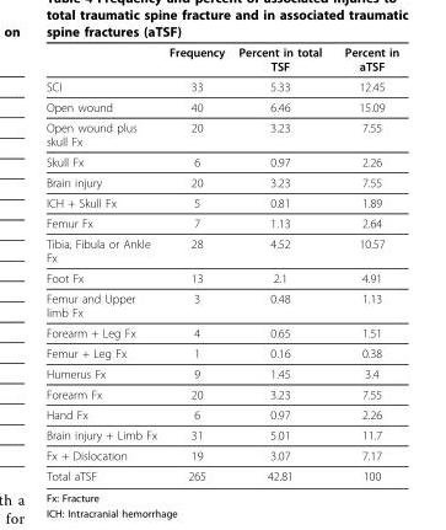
<table><thead><tr><td></td><td>Frequency</td><td>Percent in total TSF</td><td>Percent in aTSF</td></tr></thead><tbody><tr><td>SCI</td><td>33</td><td>5.33</td><td>12.45</td></tr><tr><td>Open wound</td><td>40</td><td>6.46</td><td>15.09</td></tr><tr><td>Open wound plus skull Fx</td><td>20</td><td>3.23</td><td>7.55</td></tr><tr><td>Skull Fx</td><td>6</td><td>0.97</td><td>2.26</td></tr><tr><td>Brain injury</td><td>20</td><td>3.23</td><td>7.55</td></tr><tr><td>ICH + Skull Fx</td><td>5</td><td>0.81</td><td>1.89</td></tr><tr><td>Femur Fx</td><td>7</td><td>1.13</td><td>2.64</td></tr><tr><td>Tibia, Fibula or Ankle Fx</td><td>28</td><td>4.52</td><td>10.57</td></tr><tr><td>Foot Fx</td><td>13</td><td>2.1</td><td>4.91</td></tr><tr><td>Femur and Upper limb Fx</td><td>3</td><td>0.48</td><td>1.13</td></tr><tr><td>Forearm + Leg Fx</td><td>4</td><td>0.65</td><td>1.51</td></tr><tr><td>Femur + Leg Fx</td><td>1</td><td>0.16</td><td>0.38</td></tr><tr><td>Humerus Fx</td><td>9</td><td>1.45</td><td>3.4</td></tr><tr><td>Forearm Fx</td><td>20</td><td>3.23</td><td>7.55</td></tr><tr><td>Hand Fx</td><td>6</td><td>0.97</td><td>2.26</td></tr><tr><td>Brain injury + Limb Fx</td><td>31</td><td>5.01</td><td>11.7</td></tr><tr><td>Fx + Dislocation</td><td>19</td><td>3.07</td><td>7.17</td></tr><tr><td>Total aTSF</td><td>265</td><td>42.81</td><td>100</td></tr></tbody></table>